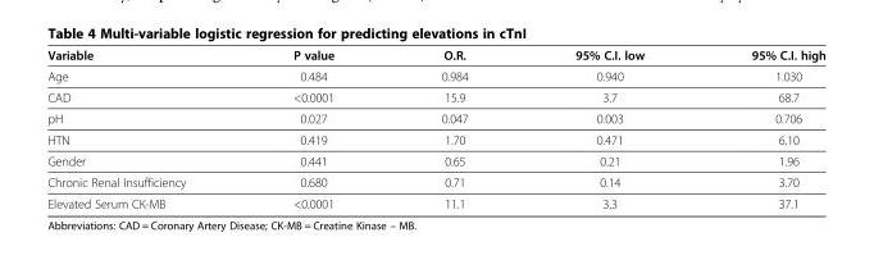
<table><thead><tr><td>Variable</td><td>P value</td><td>O.R.</td><td>95% C.I. low</td><td>95% C.I. high</td></tr></thead><tbody><tr><td>Age</td><td>0.484</td><td>0.984</td><td>0.940</td><td>1.030</td></tr><tr><td>CAD</td><td>&lt;0.0001</td><td>15.9</td><td>3.7</td><td>68.7</td></tr><tr><td>pH</td><td>0.027</td><td>0.047</td><td>0.003</td><td>0.706</td></tr><tr><td>HTN</td><td>0.419</td><td>1.70</td><td>0.471</td><td>6.10</td></tr><tr><td>Gender</td><td>0.441</td><td>0.65</td><td>0.21</td><td>1.96</td></tr><tr><td>Chronic Renal Insufficiency</td><td>0.680</td><td>0.71</td><td>0.14</td><td>3.70</td></tr><tr><td>Elevated Serum CK-MB</td><td>&lt;0.0001</td><td>11.1</td><td>3.3</td><td>37.1</td></tr></tbody></table>